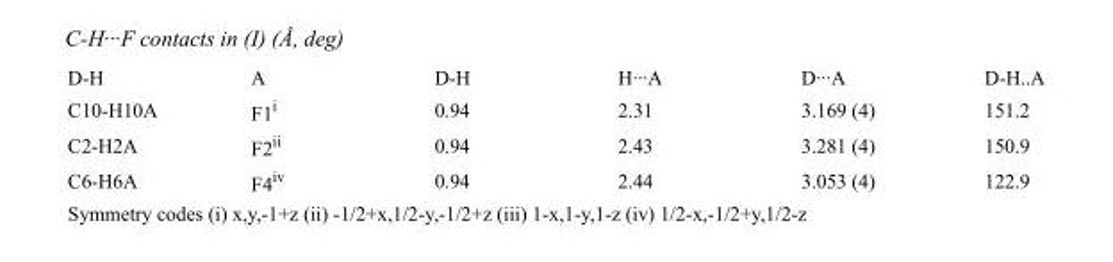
<table><tbody><tr><td>D-H</td><td>A</td><td>D-H</td><td>H···A</td><td>D···A</td><td>D-H..A</td></tr><tr><td>C10-H10A</td><td>F1<sup>i</sup></td><td>0.94</td><td>2.31</td><td>3.169 (4)</td><td>151.2</td></tr><tr><td>C2-H2A</td><td>F2<sup>ii</sup></td><td>0.94</td><td>2.43</td><td>3.281 (4)</td><td>150.9</td></tr><tr><td>C6-H6A</td><td>F4<sup>iv</sup></td><td>0.94</td><td>2.44</td><td>3.053 (4)</td><td>122.9</td></tr></tbody></table>